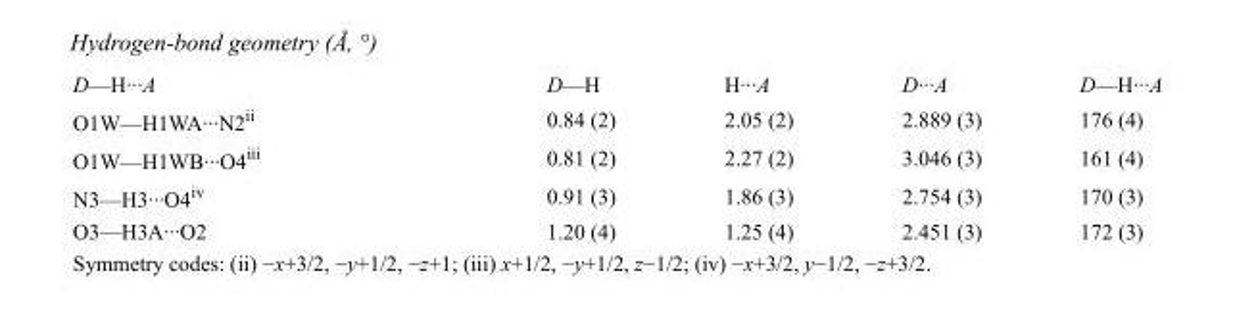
<table><tbody><tr><td>D—H···A</td><td>D—H</td><td>H···A</td><td>D···A</td><td>D—H···A</td></tr><tr><td>O1W—H1WA···N2<sup>ii</sup></td><td>0.84 (2)</td><td>2.05 (2)</td><td>2.889 (3)</td><td>176 (4)</td></tr><tr><td>O1W—H1WB···O4<sup>iii</sup></td><td>0.81 (2)</td><td>2.27 (2)</td><td>3.046 (3)</td><td>161 (4)</td></tr><tr><td>N3—H3···O4<sup>iv</sup></td><td>0.91 (3)</td><td>1.86 (3)</td><td>2.754 (3)</td><td>170 (3)</td></tr><tr><td>O3—H3A···O2</td><td>1.20 (4)</td><td>1.25 (4)</td><td>2.451 (3)</td><td>172 (3)</td></tr></tbody></table>